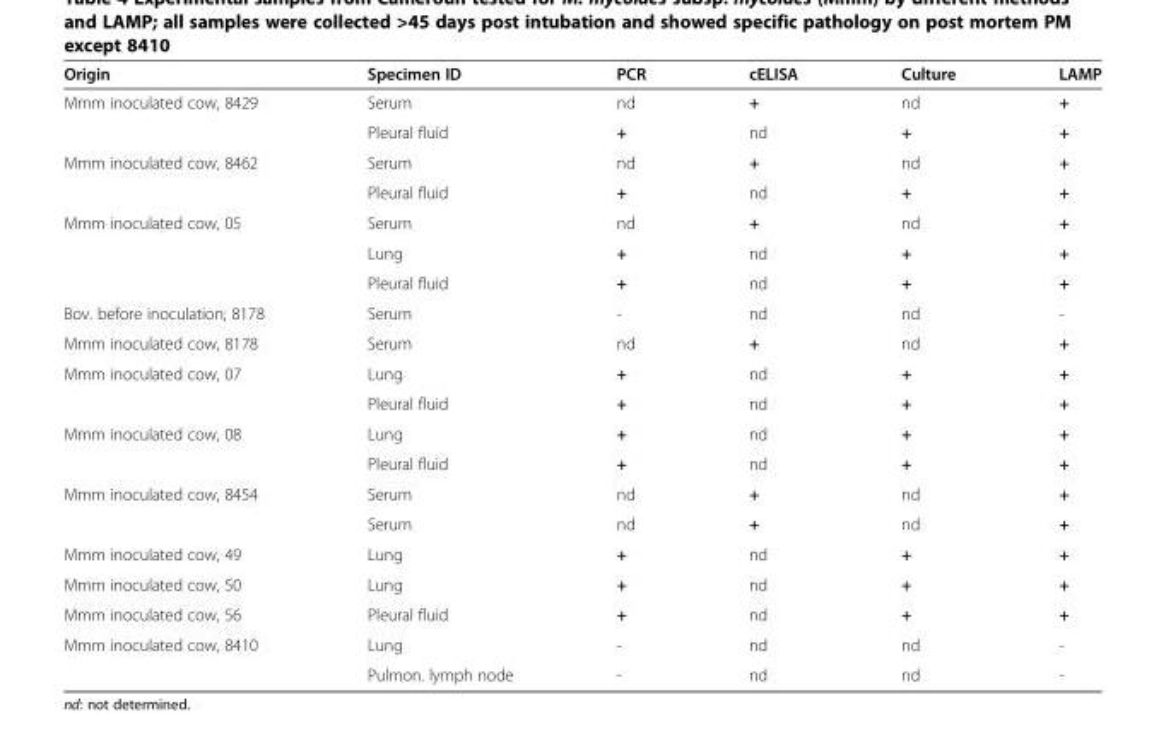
<table><thead><tr><td>Origin</td><td>Specimen ID</td><td>PCR</td><td>cELISA</td><td>Culture</td><td>LAMP</td></tr></thead><tbody><tr><td rowspan="2">Mmm inoculated cow, 8429</td><td>Serum</td><td>nd</td><td>+</td><td>nd</td><td>+</td></tr><tr><td>Pleural fluid</td><td>+</td><td>nd</td><td>+</td><td>+</td></tr><tr><td rowspan="2">Mmm inoculated cow, 8462</td><td>Serum</td><td>nd</td><td>+</td><td>nd</td><td>+</td></tr><tr><td>Pleural fluid</td><td>+</td><td>nd</td><td>+</td><td>+</td></tr><tr><td rowspan="3">Mmm inoculated cow, 05</td><td>Serum</td><td>nd</td><td>+</td><td>nd</td><td>+</td></tr><tr><td>Lung</td><td>+</td><td>nd</td><td>+</td><td>+</td></tr><tr><td>Pleural fluid</td><td>+</td><td>nd</td><td>+</td><td>+</td></tr><tr><td>Bov. before inoculation; 8178</td><td>Serum</td><td>-</td><td>nd</td><td>nd</td><td>-</td></tr><tr><td>Mmm inoculated cow, 8178</td><td>Serum</td><td>nd</td><td>+</td><td>nd</td><td>+</td></tr><tr><td rowspan="2">Mmm inoculated cow, 07</td><td>Lung</td><td>+</td><td>nd</td><td>+</td><td>+</td></tr><tr><td>Pleural fluid</td><td>+</td><td>nd</td><td>+</td><td>+</td></tr><tr><td rowspan="2">Mmm inoculated cow, 08</td><td>Lung</td><td>+</td><td>nd</td><td>+</td><td>+</td></tr><tr><td>Pleural fluid</td><td>+</td><td>nd</td><td>+</td><td>+</td></tr><tr><td rowspan="2">Mmm inoculated cow, 8454</td><td>Serum</td><td>nd</td><td>+</td><td>nd</td><td>+</td></tr><tr><td>Serum</td><td>nd</td><td>+</td><td>nd</td><td>+</td></tr><tr><td>Mmm inoculated cow, 49</td><td>Lung</td><td>+</td><td>nd</td><td>+</td><td>+</td></tr><tr><td>Mmm inoculated cow, 50</td><td>Lung</td><td>+</td><td>nd</td><td>+</td><td>+</td></tr><tr><td>Mmm inoculated cow, 56</td><td>Pleural fluid</td><td>+</td><td>nd</td><td>+</td><td>+</td></tr><tr><td rowspan="2">Mmm inoculated cow, 8410</td><td>Lung</td><td>-</td><td>nd</td><td>nd</td><td>-</td></tr><tr><td>Pulmon. lymph node</td><td>-</td><td>nd</td><td>nd</td><td>-</td></tr></tbody></table>